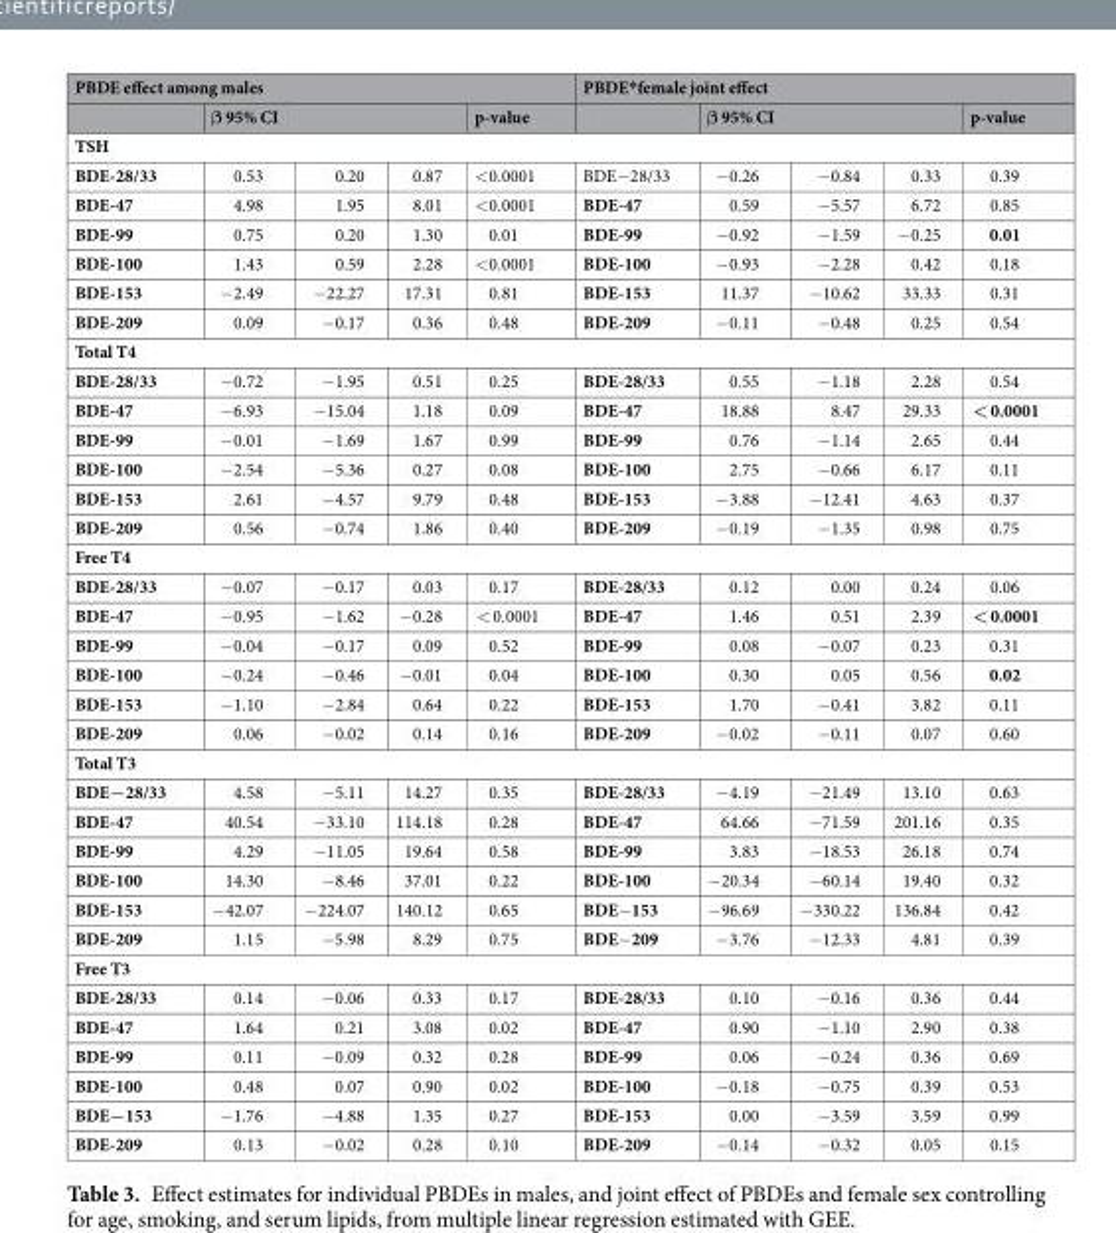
<table><thead><tr><td colspan="5">PBDE effect among males</td><td colspan="5">PBDE*female joint effect</td></tr><tr><td></td><td colspan="3">β 95% CI</td><td>p-value</td><td></td><td colspan="3">β 95% CI</td><td>p-value</td></tr><tr><td colspan="10">TSH</td></tr><tr><td>BDE-28/33</td><td>0.53</td><td>0.20</td><td>0.87</td><td>&lt;0.0001</td><td>BDE−28/33</td><td>−0.26</td><td>−0.84</td><td>0.33</td><td>0.39</td></tr></thead><tbody><tr><td>BDE-47</td><td>4.98</td><td>1.95</td><td>8.01</td><td>&lt;0.0001</td><td>BDE-47</td><td>0.59</td><td>−5.57</td><td>6.72</td><td>0.85</td></tr><tr><td>BDE-99</td><td>0.75</td><td>0.20</td><td>1.30</td><td>0.01</td><td>BDE-99</td><td>−0.92</td><td>−1.59</td><td>−0.25</td><td>0.01</td></tr><tr><td>BDE-100</td><td>1.43</td><td>0.59</td><td>2.28</td><td>&lt;0.0001</td><td>BDE-100</td><td>−0.93</td><td>−2.28</td><td>0.42</td><td>0.18</td></tr><tr><td>BDE-153</td><td>−2.49</td><td>−22.27</td><td>17.31</td><td>0.81</td><td>BDE-153</td><td>11.37</td><td>−10.62</td><td>33.33</td><td>0.31</td></tr><tr><td>BDE-209</td><td>0.09</td><td>−0.17</td><td>0.36</td><td>0.48</td><td>BDE-209</td><td>−0.11</td><td>−0.48</td><td>0.25</td><td>0.54</td></tr><tr><td colspan="10">Total T4</td></tr><tr><td>BDE-28/33</td><td>−0.72</td><td>−1.95</td><td>0.51</td><td>0.25</td><td>BDE-28/33</td><td>0.55</td><td>−1.18</td><td>2.28</td><td>0.54</td></tr><tr><td>BDE-47</td><td>−6.93</td><td>−15.04</td><td>1.18</td><td>0.09</td><td>BDE-47</td><td>18.88</td><td>8.47</td><td>29.33</td><td>&lt; 0.0001</td></tr><tr><td>BDE-99</td><td>−0.01</td><td>−1.69</td><td>1.67</td><td>0.99</td><td>BDE-99</td><td>0.76</td><td>−1.14</td><td>2.65</td><td>0.44</td></tr><tr><td>BDE-100</td><td>−2.54</td><td>−5.36</td><td>0.27</td><td>0.08</td><td>BDE-100</td><td>2.75</td><td>−0.66</td><td>6.17</td><td>0.11</td></tr><tr><td>BDE-153</td><td>2.61</td><td>−4.57</td><td>9.79</td><td>0.48</td><td>BDE-153</td><td>−3.88</td><td>−12.41</td><td>4.63</td><td>0.37</td></tr><tr><td>BDE-209</td><td>0.56</td><td>−0.74</td><td>1.86</td><td>0.40</td><td>BDE-209</td><td>−0.19</td><td>−1.35</td><td>0.98</td><td>0.75</td></tr><tr><td colspan="10">Free T4</td></tr><tr><td>BDE-28/33</td><td>−0.07</td><td>−0.17</td><td>0.03</td><td>0.17</td><td>BDE-28/33</td><td>0.12</td><td>0.00</td><td>0.24</td><td>0.06</td></tr><tr><td>BDE-47</td><td>−0.95</td><td>−1.62</td><td>−0.28</td><td>&lt; 0.0001</td><td>BDE-47</td><td>1.46</td><td>0.51</td><td>2.39</td><td>&lt; 0.0001</td></tr><tr><td>BDE-99</td><td>−0.04</td><td>−0.17</td><td>0.09</td><td>0.52</td><td>BDE-99</td><td>0.08</td><td>−0.07</td><td>0.23</td><td>0.31</td></tr><tr><td>BDE-100</td><td>−0.24</td><td>−0.46</td><td>−0.01</td><td>0.04</td><td>BDE-100</td><td>0.30</td><td>0.05</td><td>0.56</td><td>0.02</td></tr><tr><td>BDE-153</td><td>−1.10</td><td>−2.84</td><td>0.64</td><td>0.22</td><td>BDE-153</td><td>1.70</td><td>−0.41</td><td>3.82</td><td>0.11</td></tr><tr><td>BDE-209</td><td>0.06</td><td>−0.02</td><td>0.14</td><td>0.16</td><td>BDE-209</td><td>−0.02</td><td>−0.11</td><td>0.07</td><td>0.60</td></tr><tr><td colspan="10">Total T3</td></tr><tr><td>BDE−28/33</td><td>4.58</td><td>−5.11</td><td>14.27</td><td>0.35</td><td>BDE-28/33</td><td>−4.19</td><td>−21.49</td><td>13.10</td><td>0.63</td></tr><tr><td>BDE-47</td><td>40.54</td><td>−33.10</td><td>114.18</td><td>0.28</td><td>BDE-47</td><td>64.66</td><td>−71.59</td><td>201.16</td><td>0.35</td></tr><tr><td>BDE-99</td><td>4.29</td><td>−11.05</td><td>19.64</td><td>0.58</td><td>BDE-99</td><td>3.83</td><td>−18.53</td><td>26.18</td><td>0.74</td></tr><tr><td>BDE-100</td><td>14.30</td><td>−8.46</td><td>37.01</td><td>0.22</td><td>BDE-100</td><td>−20.34</td><td>−60.14</td><td>19.40</td><td>0.32</td></tr><tr><td>BDE-153</td><td>−42.07</td><td>−224.07</td><td>140.12</td><td>0.65</td><td>BDE−153</td><td>−96.69</td><td>−330.22</td><td>136.84</td><td>0.42</td></tr><tr><td>BDE-209</td><td>1.15</td><td>−5.98</td><td>8.29</td><td>0.75</td><td>BDE−209</td><td>−3.76</td><td>−12.33</td><td>4.81</td><td>0.39</td></tr><tr><td colspan="10">Free T3</td></tr><tr><td>BDE-28/33</td><td>0.14</td><td>−0.06</td><td>0.33</td><td>0.17</td><td>BDE-28/33</td><td>0.10</td><td>−0.16</td><td>0.36</td><td>0.44</td></tr><tr><td>BDE-47</td><td>1.64</td><td>0.21</td><td>3.08</td><td>0.02</td><td>BDE-47</td><td>0.90</td><td>−1.10</td><td>2.90</td><td>0.38</td></tr><tr><td>BDE-99</td><td>0.11</td><td>−0.09</td><td>0.32</td><td>0.28</td><td>BDE-99</td><td>0.06</td><td>−0.24</td><td>0.36</td><td>0.69</td></tr><tr><td>BDE-100</td><td>0.48</td><td>0.07</td><td>0.90</td><td>0.02</td><td>BDE-100</td><td>−0.18</td><td>−0.75</td><td>0.39</td><td>0.53</td></tr><tr><td>BDE−153</td><td>−1.76</td><td>−4.88</td><td>1.35</td><td>0.27</td><td>BDE-153</td><td>0.00</td><td>−3.59</td><td>3.59</td><td>0.99</td></tr><tr><td>BDE-209</td><td>0.13</td><td>−0.02</td><td>0.28</td><td>0.10</td><td>BDE-209</td><td>−0.14</td><td>−0.32</td><td>0.05</td><td>0.15</td></tr></tbody></table>